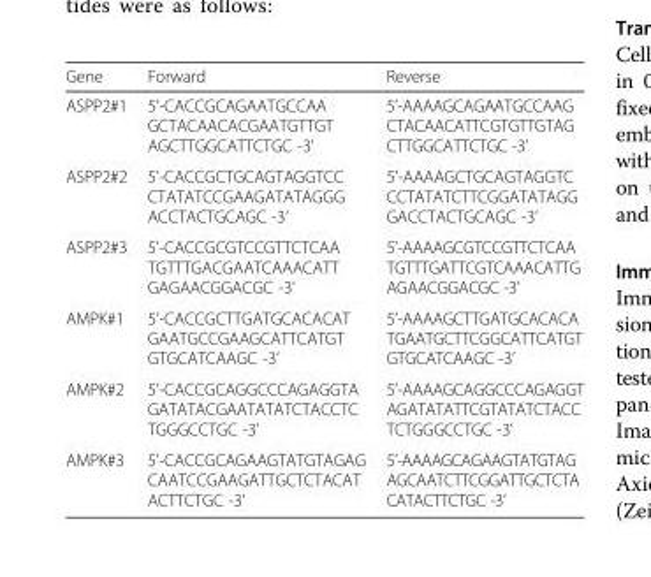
<table><thead><tr><td>Gene</td><td>Forward</td><td>Reverse</td></tr></thead><tbody><tr><td>ASPP2#1</td><td>5’-CACCGCAGAATGCCAA GCTACAACACGAATGTTGT AGCTTGGCATTCTGC -3’</td><td>5’-AAAAGCAGAATGCCAAG CTACAACATTCGTGTTGTAG CTTGGCATTCTGC -3’</td></tr><tr><td>ASPP2#2</td><td>5’-CACCGCTGCAGTAGGTCC CTATATCCGAAGATATAGGG ACCTACTGCAGC -3’</td><td>5’-AAAAGCTGCAGTAGGTC CCTATATCTTCGGATATAGG GACCTACTGCAGC -3’</td></tr><tr><td>ASPP2#3</td><td>5’-CACCGCGTCCGTTCTCAA TGTTTGACGAATCAAACATT GAGAACGGACGC -3’</td><td>5’-AAAAGCGTCCGTTCTCAA TGTTTGATTCGTCAAACATTG AGAACGGACGC -3’</td></tr><tr><td>AMPK#1</td><td>5’-CACCGCTTGATGCACACAT GAATGCCGAAGCATTCATGT GTGCATCAAGC -3’</td><td>5’-AAAAGCTTGATGCACACA TGAATGCTTCGGCATTCATGT GTGCATCAAGC -3’</td></tr><tr><td>AMPK#2</td><td>5’-CACCGCAGGCCCAGAGGTA GATATACGAATATATCTACCTC TGGGCCTGC -3’</td><td>5’-AAAAGCAGGCCCAGAGGT AGATATATTCGTATATCTACC TCTGGGCCTGC -3’</td></tr><tr><td>AMPK#3</td><td>5’-CACCGCAGAAGTATGTAGAG CAATCCGAAGATTGCTCTACAT ACTTCTGC -3’</td><td>5’-AAAAGCAGAAGTATGTAG AGCAATCTTCGGATTGCTCTA CATACTTCTGC -3’</td></tr></tbody></table>